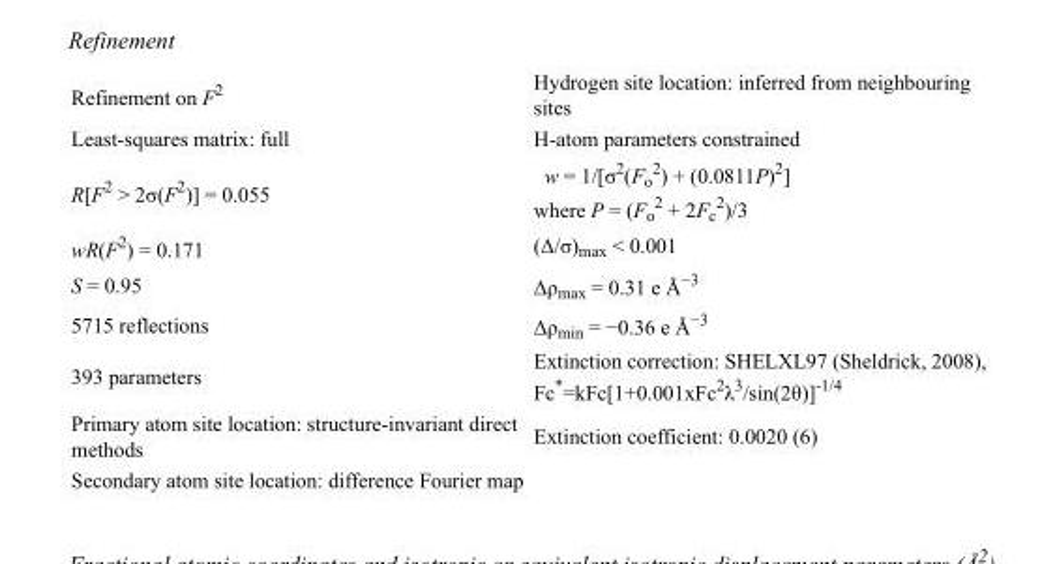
<table><tbody><tr><td>Refinement on F<sup>2</sup></td><td>Hydrogen site location: inferred from neighbouring sites</td></tr><tr><td>Least-squares matrix: full</td><td>H-atom parameters constrained</td></tr><tr><td>R[F<sup>2</sup> &gt; 2σ(F<sup>2</sup>)] = 0.055</td><td>w = 1/[σ<sup>2</sup>(F<sub>o</sub> <sup>2</sup>) + (0.0811P)<sup>2</sup>] where P = (F<sub>o</sub> <sup>2</sup> + 2F<sub>c</sub> <sup>2</sup>)/3</td></tr><tr><td>wR(F<sup>2</sup>) = 0.171</td><td>(Δ/σ)<sub>max</sub> &lt; 0.001</td></tr><tr><td>S = 0.95</td><td>Δρ<sub>max</sub> = 0.31 e Å<sup>−3</sup></td></tr><tr><td>5715 reflections</td><td>Δρ<sub>min</sub> = −0.36 e Å<sup>−3</sup></td></tr><tr><td>393 parameters</td><td>Extinction correction: SHELXL97 (Sheldrick, 2008), Fc*=kFc[1+0.001xFc<sup>2</sup>λ<sup>3</sup>/sin(2θ)]<sup>-1/4</sup></td></tr><tr><td>Primary atom site location: structure-invariant direct methods</td><td>Extinction coefficient: 0.0020 (6)</td></tr><tr><td>Secondary atom site location: difference Fourier map</td><td></td></tr></tbody></table>